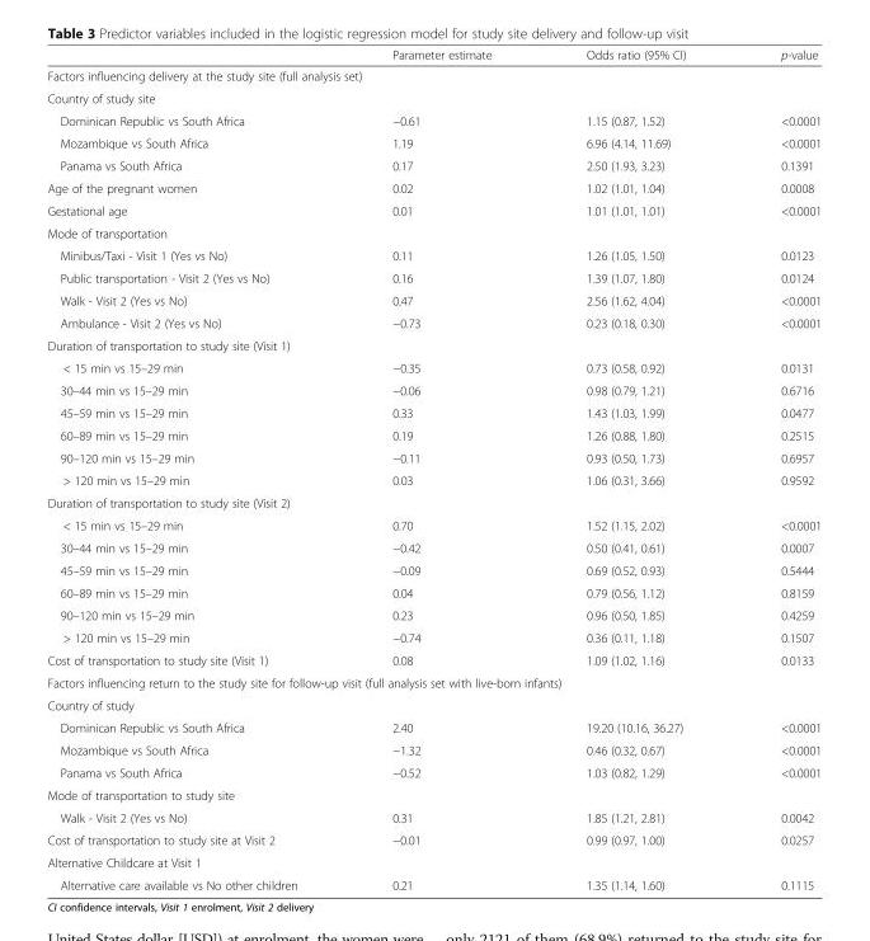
<table><thead><tr><td></td><td>Parameter estimate</td><td>Odds ratio (95% CI)</td><td>p-value</td></tr></thead><tbody><tr><td colspan="4">Factors influencing delivery at the study site (full analysis set)</td></tr><tr><td colspan="4">Country of study site</td></tr><tr><td>Dominican Republic vs South Africa</td><td>−0.61</td><td>1.15 (0.87, 1.52)</td><td>&lt;0.0001</td></tr><tr><td>Mozambique vs South Africa</td><td>1.19</td><td>6.96 (4.14, 11.69)</td><td>&lt;0.0001</td></tr><tr><td>Panama vs South Africa</td><td>0.17</td><td>2.50 (1.93, 3.23)</td><td>0.1391</td></tr><tr><td>Age of the pregnant women</td><td>0.02</td><td>1.02 (1.01, 1.04)</td><td>0.0008</td></tr><tr><td>Gestational age</td><td>0.01</td><td>1.01 (1.01, 1.01)</td><td>&lt;0.0001</td></tr><tr><td colspan="4">Mode of transportation</td></tr><tr><td>Minibus/Taxi - Visit 1 (Yes vs No)</td><td>0.11</td><td>1.26 (1.05, 1.50)</td><td>0.0123</td></tr><tr><td>Public transportation - Visit 2 (Yes vs No)</td><td>0.16</td><td>1.39 (1.07, 1.80)</td><td>0.0124</td></tr><tr><td>Walk - Visit 2 (Yes vs No)</td><td>0.47</td><td>2.56 (1.62, 4.04)</td><td>&lt;0.0001</td></tr><tr><td>Ambulance - Visit 2 (Yes vs No)</td><td>−0.73</td><td>0.23 (0.18, 0.30)</td><td>&lt;0.0001</td></tr><tr><td colspan="4">Duration of transportation to study site (Visit 1)</td></tr><tr><td>&lt; 15 min vs 15–29 min</td><td>−0.35</td><td>0.73 (0.58, 0.92)</td><td>0.0131</td></tr><tr><td>30–44 min vs 15–29 min</td><td>−0.06</td><td>0.98 (0.79, 1.21)</td><td>0.6716</td></tr><tr><td>45–59 min vs 15–29 min</td><td>0.33</td><td>1.43 (1.03, 1.99)</td><td>0.0477</td></tr><tr><td>60–89 min vs 15–29 min</td><td>0.19</td><td>1.26 (0.88, 1.80)</td><td>0.2515</td></tr><tr><td>90–120 min vs 15–29 min</td><td>−0.11</td><td>0.93 (0.50, 1.73)</td><td>0.6957</td></tr><tr><td>&gt; 120 min vs 15–29 min</td><td>0.03</td><td>1.06 (0.31, 3.66)</td><td>0.9592</td></tr><tr><td colspan="4">Duration of transportation to study site (Visit 2)</td></tr><tr><td>&lt; 15 min vs 15–29 min</td><td>0.70</td><td>1.52 (1.15, 2.02)</td><td>&lt;0.0001</td></tr><tr><td>30–44 min vs 15–29 min</td><td>−0.42</td><td>0.50 (0.41, 0.61)</td><td>0.0007</td></tr><tr><td>45–59 min vs 15–29 min</td><td>−0.09</td><td>0.69 (0.52, 0.93)</td><td>0.5444</td></tr><tr><td>60–89 min vs 15–29 min</td><td>0.04</td><td>0.79 (0.56, 1.12)</td><td>0.8159</td></tr><tr><td>90–120 min vs 15–29 min</td><td>0.23</td><td>0.96 (0.50, 1.85)</td><td>0.4259</td></tr><tr><td>&gt; 120 min vs 15–29 min</td><td>−0.74</td><td>0.36 (0.11, 1.18)</td><td>0.1507</td></tr><tr><td>Cost of transportation to study site (Visit 1)</td><td>0.08</td><td>1.09 (1.02, 1.16)</td><td>0.0133</td></tr><tr><td colspan="4">Factors influencing return to the study site for follow-up visit (full analysis set with live-born infants)</td></tr><tr><td colspan="4">Country of study</td></tr><tr><td>Dominican Republic vs South Africa</td><td>2.40</td><td>19.20 (10.16, 36.27)</td><td>&lt;0.0001</td></tr><tr><td>Mozambique vs South Africa</td><td>−1.32</td><td>0.46 (0.32, 0.67)</td><td>&lt;0.0001</td></tr><tr><td>Panama vs South Africa</td><td>−0.52</td><td>1.03 (0.82, 1.29)</td><td>&lt;0.0001</td></tr><tr><td colspan="4">Mode of transportation to study site</td></tr><tr><td>Walk - Visit 2 (Yes vs No)</td><td>0.31</td><td>1.85 (1.21, 2.81)</td><td>0.0042</td></tr><tr><td>Cost of transportation to study site at Visit 2</td><td>−0.01</td><td>0.99 (0.97, 1.00)</td><td>0.0257</td></tr><tr><td colspan="4">Alternative Childcare at Visit 1</td></tr><tr><td>Alternative care available vs No other children</td><td>0.21</td><td>1.35 (1.14, 1.60)</td><td>0.1115</td></tr></tbody></table>